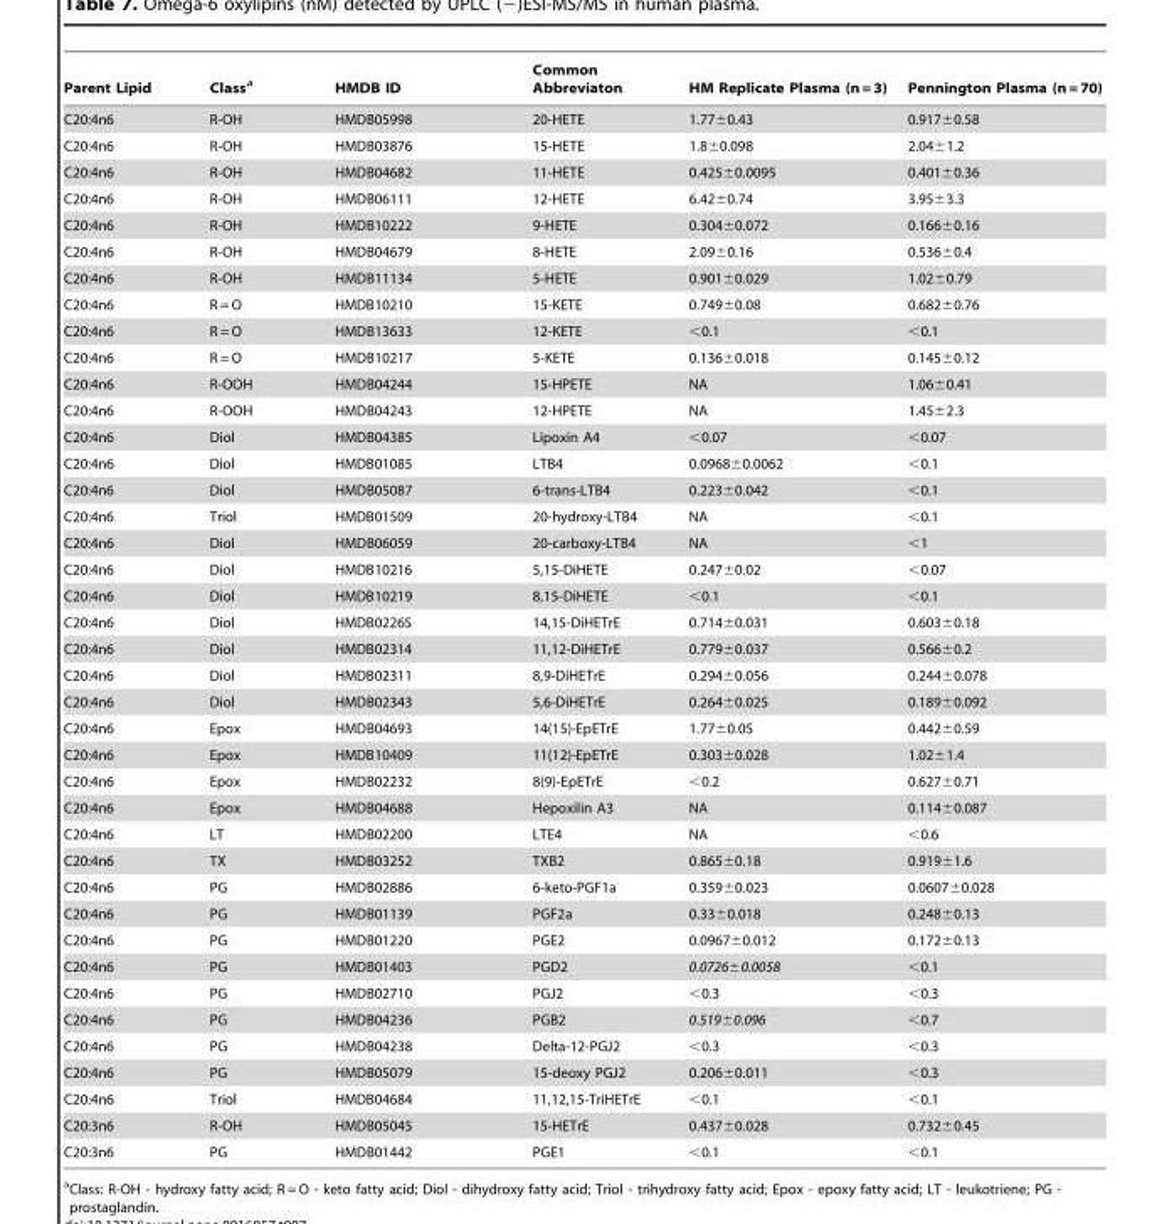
<table><thead><tr><td>Parent Lipid</td><td>Class<sup>a</sup></td><td>HMDB ID</td><td>Common Abbreviaton</td><td>HM Replicate Plasma (n = 3)</td><td>Pennington Plasma (n = 70)</td></tr></thead><tbody><tr><td>C20:4n6</td><td>R-OH</td><td>HMDB05998</td><td>20-HETE</td><td>1.77±0.43</td><td>0.917±0.58</td></tr><tr><td>C20:4n6</td><td>R-OH</td><td>HMDB03876</td><td>15-HETE</td><td>1.8±0.098</td><td>2.04±1.2</td></tr><tr><td>C20:4n6</td><td>R-OH</td><td>HMDB04682</td><td>11-HETE</td><td>0.425±0.0095</td><td>0.401±0.36</td></tr><tr><td>C20:4n6</td><td>R-OH</td><td>HMDB06111</td><td>12-HETE</td><td>6.42±0.74</td><td>3.95±3.3</td></tr><tr><td>C20:4n6</td><td>R-OH</td><td>HMDB10222</td><td>9-HETE</td><td>0.304±0.072</td><td>0.166±0.16</td></tr><tr><td>C20:4n6</td><td>R-OH</td><td>HMDB04679</td><td>8-HETE</td><td>2.09±0.16</td><td>0.536±0.4</td></tr><tr><td>C20:4n6</td><td>R-OH</td><td>HMDB11134</td><td>5-HETE</td><td>0.901±0.029</td><td>1.02±0.79</td></tr><tr><td>C20:4n6</td><td>R = O</td><td>HMDB10210</td><td>15-KETE</td><td>0.749±0.08</td><td>0.682±0.76</td></tr><tr><td>C20:4n6</td><td>R = O</td><td>HMDB13633</td><td>12-KETE</td><td>&lt;0.1</td><td>&lt;0.1</td></tr><tr><td>C20:4n6</td><td>R = O</td><td>HMDB10217</td><td>5-KETE</td><td>0.136±0.018</td><td>0.145±0.12</td></tr><tr><td>C20:4n6</td><td>R-OOH</td><td>HMDB04244</td><td>15-HPETE</td><td>NA</td><td>1.06±0.41</td></tr><tr><td>C20:4n6</td><td>R-OOH</td><td>HMDB04243</td><td>12-HPETE</td><td>NA</td><td>1.45±2.3</td></tr><tr><td>C20:4n6</td><td>Diol</td><td>HMDB04385</td><td>Lipoxin A4</td><td>&lt;0.07</td><td>&lt;0.07</td></tr><tr><td>C20:4n6</td><td>Diol</td><td>HMDB01085</td><td>LTB4</td><td>0.0968±0.0062</td><td>&lt;0.1</td></tr><tr><td>C20:4n6</td><td>Diol</td><td>HMDB05087</td><td>6-trans-LTB4</td><td>0.223±0.042</td><td>&lt;0.1</td></tr><tr><td>C20:4n6</td><td>Triol</td><td>HMDB01509</td><td>20-hydroxy-LTB4</td><td>NA</td><td>&lt;0.1</td></tr><tr><td>C20:4n6</td><td>Diol</td><td>HMDB06059</td><td>20-carboxy-LTB4</td><td>NA</td><td>&lt;1</td></tr><tr><td>C20:4n6</td><td>Diol</td><td>HMDB10216</td><td>5,15-DiHETE</td><td>0.247±0.02</td><td>&lt;0.07</td></tr><tr><td>C20:4n6</td><td>Diol</td><td>HMDB10219</td><td>8,15-DiHETE</td><td>&lt;0.1</td><td>&lt;0.1</td></tr><tr><td>C20:4n6</td><td>Diol</td><td>HMDB02265</td><td>14,15-DiHETrE</td><td>0.714±0.031</td><td>0.603±0.18</td></tr><tr><td>C20:4n6</td><td>Diol</td><td>HMDB02314</td><td>11,12-DiHETrE</td><td>0.779±0.037</td><td>0.566±0.2</td></tr><tr><td>C20:4n6</td><td>Diol</td><td>HMDB02311</td><td>8,9-DiHETrE</td><td>0.294±0.056</td><td>0.244±0.078</td></tr><tr><td>C20:4n6</td><td>Diol</td><td>HMDB02343</td><td>5,6-DiHETrE</td><td>0.264±0.025</td><td>0.189±0.092</td></tr><tr><td>C20:4n6</td><td>Epox</td><td>HMDB04693</td><td>14(15)-EpETrE</td><td>1.77±0.05</td><td>0.442±0.59</td></tr><tr><td>C20:4n6</td><td>Epox</td><td>HMDB10409</td><td>11(12)-EpETrE</td><td>0.303±0.028</td><td>1.02±1.4</td></tr><tr><td>C20:4n6</td><td>Epox</td><td>HMDB02232</td><td>8(9)-EpETrE</td><td>&lt;0.2</td><td>0.627±0.71</td></tr><tr><td>C20:4n6</td><td>Epox</td><td>HMDB04688</td><td>Hepoxilin A3</td><td>NA</td><td>0.114±0.087</td></tr><tr><td>C20:4n6</td><td>LT</td><td>HMDB02200</td><td>LTE4</td><td>NA</td><td>&lt;0.6</td></tr><tr><td>C20:4n6</td><td>TX</td><td>HMDB03252</td><td>TXB2</td><td>0.865±0.18</td><td>0.919±1.6</td></tr><tr><td>C20:4n6</td><td>PG</td><td>HMDB02886</td><td>6-keto-PGF1a</td><td>0.359±0.023</td><td>0.0607±0.028</td></tr><tr><td>C20:4n6</td><td>PG</td><td>HMDB01139</td><td>PGF2a</td><td>0.33±0.018</td><td>0.248±0.13</td></tr><tr><td>C20:4n6</td><td>PG</td><td>HMDB01220</td><td>PGE2</td><td>0.0967±0.012</td><td>0.172±0.13</td></tr><tr><td>C20:4n6</td><td>PG</td><td>HMDB01403</td><td>PGD2</td><td>0.0726±0.0058</td><td>&lt;0.1</td></tr><tr><td>C20:4n6</td><td>PG</td><td>HMDB02710</td><td>PGJ2</td><td>&lt;0.3</td><td>&lt;0.3</td></tr><tr><td>C20:4n6</td><td>PG</td><td>HMDB04236</td><td>PGB2</td><td>0.519±0.096</td><td>&lt;0.7</td></tr><tr><td>C20:4n6</td><td>PG</td><td>HMDB04238</td><td>Delta-12-PGJ2</td><td>&lt;0.3</td><td>&lt;0.3</td></tr><tr><td>C20:4n6</td><td>PG</td><td>HMDB05079</td><td>15-deoxy PGJ2</td><td>0.206±0.011</td><td>&lt;0.3</td></tr><tr><td>C20:4n6</td><td>Triol</td><td>HMDB04684</td><td>11,12,15-TriHETrE</td><td>&lt;0.1</td><td>&lt;0.1</td></tr><tr><td>C20:3n6</td><td>R-OH</td><td>HMDB05045</td><td>15-HETrE</td><td>0.437±0.028</td><td>0.732±0.45</td></tr><tr><td>C20:3n6</td><td>PG</td><td>HMDB01442</td><td>PGE1</td><td>&lt;0.1</td><td>&lt;0.1</td></tr></tbody></table>